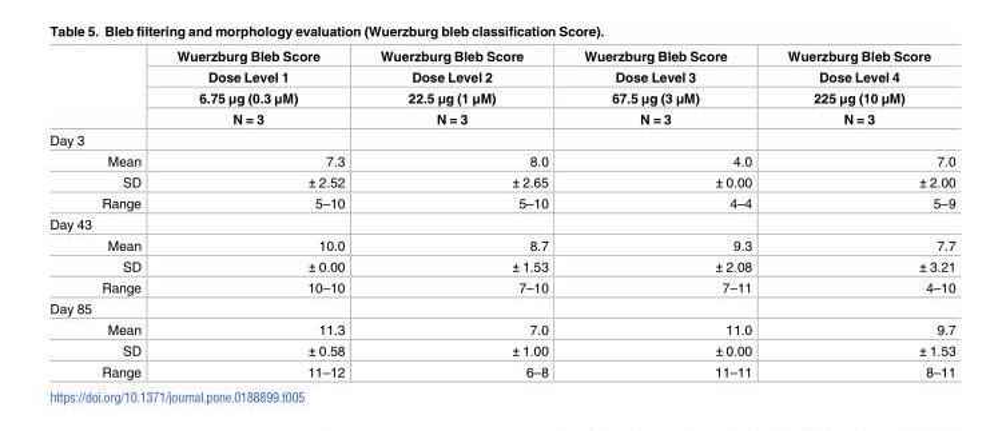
<table><thead><tr><td rowspan="4"></td><td rowspan="4">Wuerzburg Bleb Score Dose Level 1 6.75 μg (0.3 μM) N = 3</td><td rowspan="4">Wuerzburg Bleb Score Dose Level 2 22.5 μg (1 μM) N = 3</td><td rowspan="4">Wuerzburg Bleb Score Dose Level 3 67.5 μg (3 μM) N = 3</td><td rowspan="4">Wuerzburg Bleb Score Dose Level 4 225 μg (10 μM) N = 3</td></tr><tr></tr><tr></tr><tr></tr></thead><tbody><tr><td colspan="5">Day 3</td></tr><tr><td>Mean</td><td>7.3</td><td>8.0</td><td>4.0</td><td>7.0</td></tr><tr><td>SD</td><td>± 2.52</td><td>± 2.65</td><td>± 0.00</td><td>± 2.00</td></tr><tr><td>Range</td><td>5–10</td><td>5–10</td><td>4–4</td><td>5–9</td></tr><tr><td colspan="5">Day 43</td></tr><tr><td>Mean</td><td>10.0</td><td>8.7</td><td>9.3</td><td>7.7</td></tr><tr><td>SD</td><td>± 0.00</td><td>± 1.53</td><td>± 2.08</td><td>± 3.21</td></tr><tr><td>Range</td><td>10–10</td><td>7–10</td><td>7–11</td><td>4–10</td></tr><tr><td colspan="5">Day 85</td></tr><tr><td>Mean</td><td>11.3</td><td>7.0</td><td>11.0</td><td>9.7</td></tr><tr><td>SD</td><td>± 0.58</td><td>± 1.00</td><td>± 0.00</td><td>± 1.53</td></tr><tr><td>Range</td><td>11–12</td><td>6–8</td><td>11–11</td><td>8–11</td></tr></tbody></table>